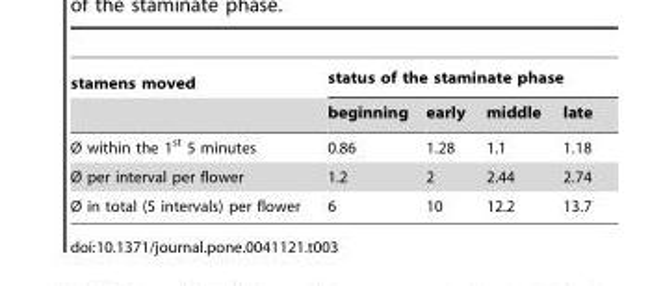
<table><thead><tr><td rowspan="2">stamens moved</td><td colspan="4">status of the staminate phase</td></tr><tr><td>beginning</td><td>early</td><td>middle</td><td>late</td></tr></thead><tbody><tr><td>Ø within the 1<sup>st</sup> 5 minutes</td><td>0.86</td><td>1.28</td><td>1.1</td><td>1.18</td></tr><tr><td>Ø per interval per flower</td><td>1.2</td><td>2</td><td>2.44</td><td>2.74</td></tr><tr><td>Ø in total (5 intervals) per flower</td><td>6</td><td>10</td><td>12.2</td><td>13.7</td></tr></tbody></table>